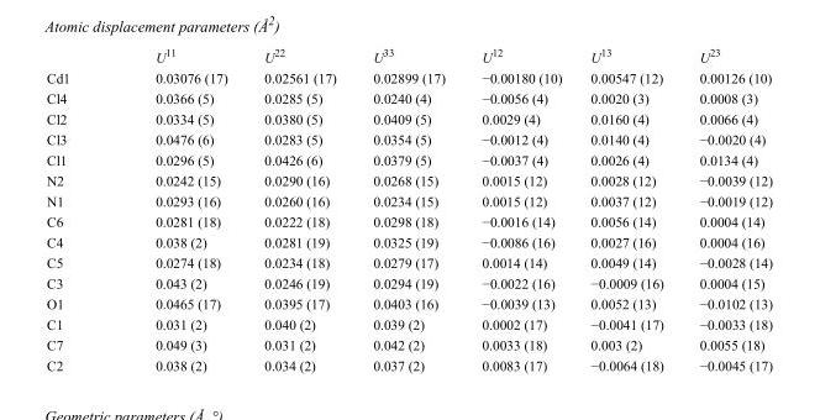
<table><thead><tr><td></td><td>U<sup>11</sup></td><td>U<sup>22</sup></td><td>U<sup>33</sup></td><td>U<sup>12</sup></td><td>U<sup>13</sup></td><td>U<sup>23</sup></td></tr></thead><tbody><tr><td>Cd1</td><td>0.03076 (17)</td><td>0.02561 (17)</td><td>0.02899 (17)</td><td>−0.00180 (10)</td><td>0.00547 (12)</td><td>0.00126 (10)</td></tr><tr><td>Cl4</td><td>0.0366 (5)</td><td>0.0285 (5)</td><td>0.0240 (4)</td><td>−0.0056 (4)</td><td>0.0020 (3)</td><td>0.0008 (3)</td></tr><tr><td>Cl2</td><td>0.0334 (5)</td><td>0.0380 (5)</td><td>0.0409 (5)</td><td>0.0029 (4)</td><td>0.0160 (4)</td><td>0.0066 (4)</td></tr><tr><td>Cl3</td><td>0.0476 (6)</td><td>0.0283 (5)</td><td>0.0354 (5)</td><td>−0.0012 (4)</td><td>0.0140 (4)</td><td>−0.0020 (4)</td></tr><tr><td>Cl1</td><td>0.0296 (5)</td><td>0.0426 (6)</td><td>0.0379 (5)</td><td>−0.0037 (4)</td><td>0.0026 (4)</td><td>0.0134 (4)</td></tr><tr><td>N2</td><td>0.0242 (15)</td><td>0.0290 (16)</td><td>0.0268 (15)</td><td>0.0015 (12)</td><td>0.0028 (12)</td><td>−0.0039 (12)</td></tr><tr><td>N1</td><td>0.0293 (16)</td><td>0.0260 (16)</td><td>0.0234 (15)</td><td>0.0015 (12)</td><td>0.0037 (12)</td><td>−0.0019 (12)</td></tr><tr><td>C6</td><td>0.0281 (18)</td><td>0.0222 (18)</td><td>0.0298 (18)</td><td>−0.0016 (14)</td><td>0.0056 (14)</td><td>0.0004 (14)</td></tr><tr><td>C4</td><td>0.038 (2)</td><td>0.0281 (19)</td><td>0.0325 (19)</td><td>−0.0086 (16)</td><td>0.0027 (16)</td><td>0.0004 (16)</td></tr><tr><td>C5</td><td>0.0274 (18)</td><td>0.0234 (18)</td><td>0.0279 (17)</td><td>0.0014 (14)</td><td>0.0049 (14)</td><td>−0.0028 (14)</td></tr><tr><td>C3</td><td>0.043 (2)</td><td>0.0246 (19)</td><td>0.0294 (19)</td><td>−0.0022 (16)</td><td>−0.0009 (16)</td><td>0.0004 (15)</td></tr><tr><td>O1</td><td>0.0465 (17)</td><td>0.0395 (17)</td><td>0.0403 (16)</td><td>−0.0039 (13)</td><td>0.0052 (13)</td><td>−0.0102 (13)</td></tr><tr><td>C1</td><td>0.031 (2)</td><td>0.040 (2)</td><td>0.039 (2)</td><td>0.0002 (17)</td><td>−0.0041 (17)</td><td>−0.0033 (18)</td></tr><tr><td>C7</td><td>0.049 (3)</td><td>0.031 (2)</td><td>0.042 (2)</td><td>0.0033 (18)</td><td>0.003 (2)</td><td>0.0055 (18)</td></tr><tr><td>C2</td><td>0.038 (2)</td><td>0.034 (2)</td><td>0.037 (2)</td><td>0.0083 (17)</td><td>−0.0064 (18)</td><td>−0.0045 (17)</td></tr></tbody></table>